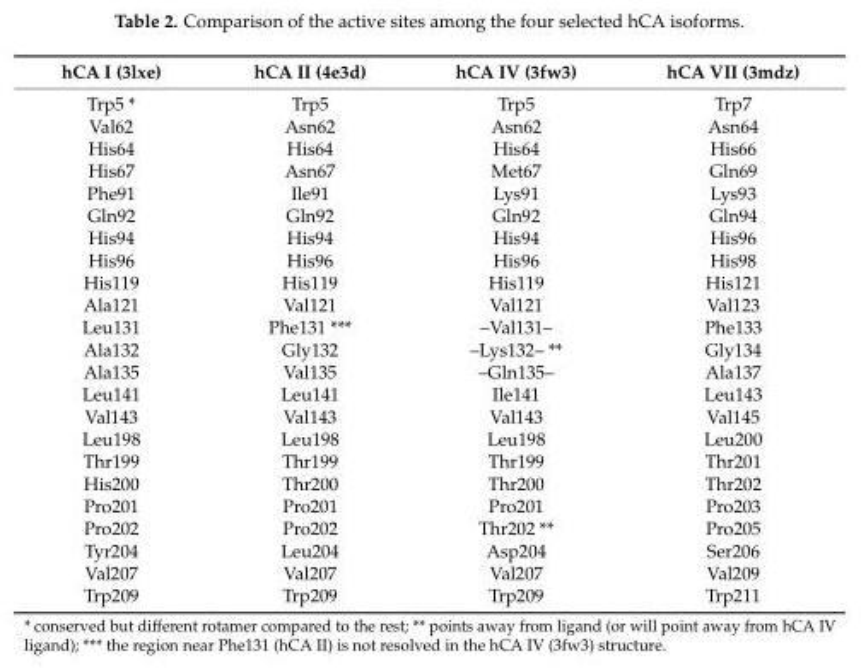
<table><thead><tr><td>hCA I (3lxe)</td><td>hCA II (4e3d)</td><td>hCA IV (3fw3)</td><td>hCA VII (3mdz)</td></tr></thead><tbody><tr><td>Trp5 *</td><td>Trp5</td><td>Trp5</td><td>Trp7</td></tr><tr><td>Val62</td><td>Asn62</td><td>Asn62</td><td>Asn64</td></tr><tr><td>His64</td><td>His64</td><td>His64</td><td>His66</td></tr><tr><td>His67</td><td>Asn67</td><td>Met67</td><td>Gln69</td></tr><tr><td>Phe91</td><td>Ile91</td><td>Lys91</td><td>Lys93</td></tr><tr><td>Gln92</td><td>Gln92</td><td>Gln92</td><td>Gln94</td></tr><tr><td>His94</td><td>His94</td><td>His94</td><td>His96</td></tr><tr><td>His96</td><td>His96</td><td>His96</td><td>His98</td></tr><tr><td>His119</td><td>His119</td><td>His119</td><td>His121</td></tr><tr><td>Ala121</td><td>Val121</td><td>Val121</td><td>Val123</td></tr><tr><td>Leu131</td><td>Phe131 ***</td><td>–Val131–</td><td>Phe133</td></tr><tr><td>Ala132</td><td>Gly132</td><td>–Lys132– **</td><td>Gly134</td></tr><tr><td>Ala135</td><td>Val135</td><td>–Gln135–</td><td>Ala137</td></tr><tr><td>Leu141</td><td>Leu141</td><td>Ile141</td><td>Leu143</td></tr><tr><td>Val143</td><td>Val143</td><td>Val143</td><td>Val145</td></tr><tr><td>Leu198</td><td>Leu198</td><td>Leu198</td><td>Leu200</td></tr><tr><td>Thr199</td><td>Thr199</td><td>Thr199</td><td>Thr201</td></tr><tr><td>His200</td><td>Thr200</td><td>Thr200</td><td>Thr202</td></tr><tr><td>Pro201</td><td>Pro201</td><td>Pro201</td><td>Pro203</td></tr><tr><td>Pro202</td><td>Pro202</td><td>Thr202 **</td><td>Pro205</td></tr><tr><td>Tyr204</td><td>Leu204</td><td>Asp204</td><td>Ser206</td></tr><tr><td>Val207</td><td>Val207</td><td>Val207</td><td>Val209</td></tr><tr><td>Trp209</td><td>Trp209</td><td>Trp209</td><td>Trp211</td></tr></tbody></table>